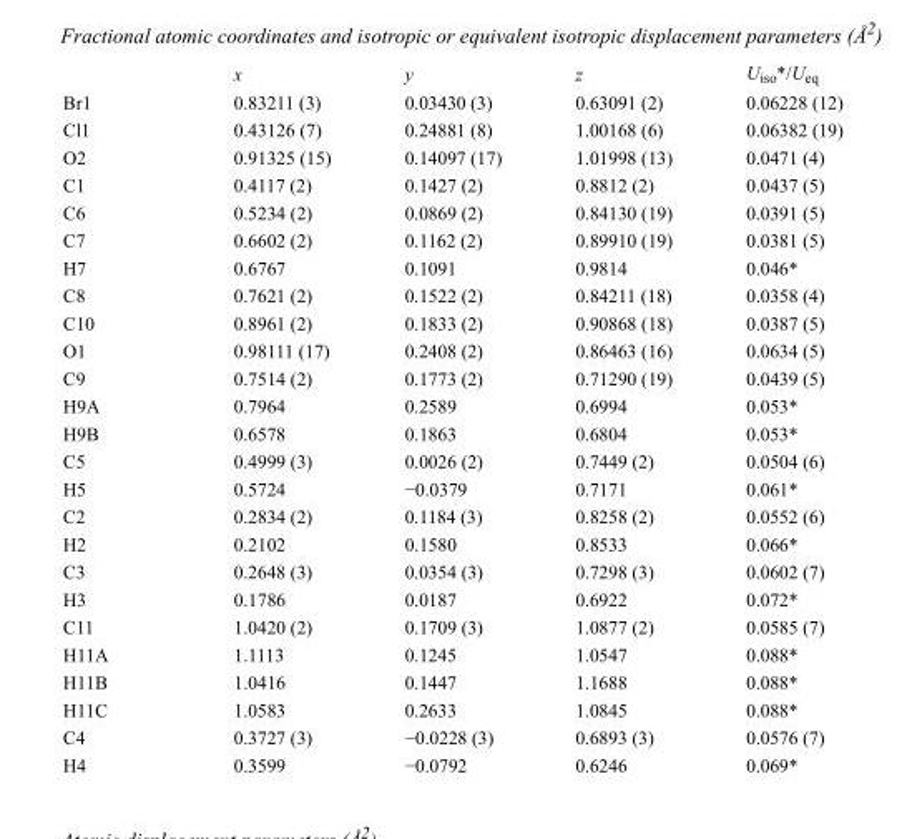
<table><thead><tr><td></td><td>x</td><td>y</td><td>z</td><td>U<sub>iso</sub>*/U<sub>eq</sub></td></tr></thead><tbody><tr><td>Br1</td><td>0.83211 (3)</td><td>0.03430 (3)</td><td>0.63091 (2)</td><td>0.06228 (12)</td></tr><tr><td>Cl1</td><td>0.43126 (7)</td><td>0.24881 (8)</td><td>1.00168 (6)</td><td>0.06382 (19)</td></tr><tr><td>O2</td><td>0.91325 (15)</td><td>0.14097 (17)</td><td>1.01998 (13)</td><td>0.0471 (4)</td></tr><tr><td>C1</td><td>0.4117 (2)</td><td>0.1427 (2)</td><td>0.8812 (2)</td><td>0.0437 (5)</td></tr><tr><td>C6</td><td>0.5234 (2)</td><td>0.0869 (2)</td><td>0.84130 (19)</td><td>0.0391 (5)</td></tr><tr><td>C7</td><td>0.6602 (2)</td><td>0.1162 (2)</td><td>0.89910 (19)</td><td>0.0381 (5)</td></tr><tr><td>H7</td><td>0.6767</td><td>0.1091</td><td>0.9814</td><td>0.046*</td></tr><tr><td>C8</td><td>0.7621 (2)</td><td>0.1522 (2)</td><td>0.84211 (18)</td><td>0.0358 (4)</td></tr><tr><td>C10</td><td>0.8961 (2)</td><td>0.1833 (2)</td><td>0.90868 (18)</td><td>0.0387 (5)</td></tr><tr><td>O1</td><td>0.98111 (17)</td><td>0.2408 (2)</td><td>0.86463 (16)</td><td>0.0634 (5)</td></tr><tr><td>C9</td><td>0.7514 (2)</td><td>0.1773 (2)</td><td>0.71290 (19)</td><td>0.0439 (5)</td></tr><tr><td>H9A</td><td>0.7964</td><td>0.2589</td><td>0.6994</td><td>0.053*</td></tr><tr><td>H9B</td><td>0.6578</td><td>0.1863</td><td>0.6804</td><td>0.053*</td></tr><tr><td>C5</td><td>0.4999 (3)</td><td>0.0026 (2)</td><td>0.7449 (2)</td><td>0.0504 (6)</td></tr><tr><td>H5</td><td>0.5724</td><td>−0.0379</td><td>0.7171</td><td>0.061*</td></tr><tr><td>C2</td><td>0.2834 (2)</td><td>0.1184 (3)</td><td>0.8258 (2)</td><td>0.0552 (6)</td></tr><tr><td>H2</td><td>0.2102</td><td>0.1580</td><td>0.8533</td><td>0.066*</td></tr><tr><td>C3</td><td>0.2648 (3)</td><td>0.0354 (3)</td><td>0.7298 (3)</td><td>0.0602 (7)</td></tr><tr><td>H3</td><td>0.1786</td><td>0.0187</td><td>0.6922</td><td>0.072*</td></tr><tr><td>C11</td><td>1.0420 (2)</td><td>0.1709 (3)</td><td>1.0877 (2)</td><td>0.0585 (7)</td></tr><tr><td>H11A</td><td>1.1113</td><td>0.1245</td><td>1.0547</td><td>0.088*</td></tr><tr><td>H11B</td><td>1.0416</td><td>0.1447</td><td>1.1688</td><td>0.088*</td></tr><tr><td>H11C</td><td>1.0583</td><td>0.2633</td><td>1.0845</td><td>0.088*</td></tr><tr><td>C4</td><td>0.3727 (3)</td><td>−0.0228 (3)</td><td>0.6893 (3)</td><td>0.0576 (7)</td></tr><tr><td>H4</td><td>0.3599</td><td>−0.0792</td><td>0.6246</td><td>0.069*</td></tr></tbody></table>